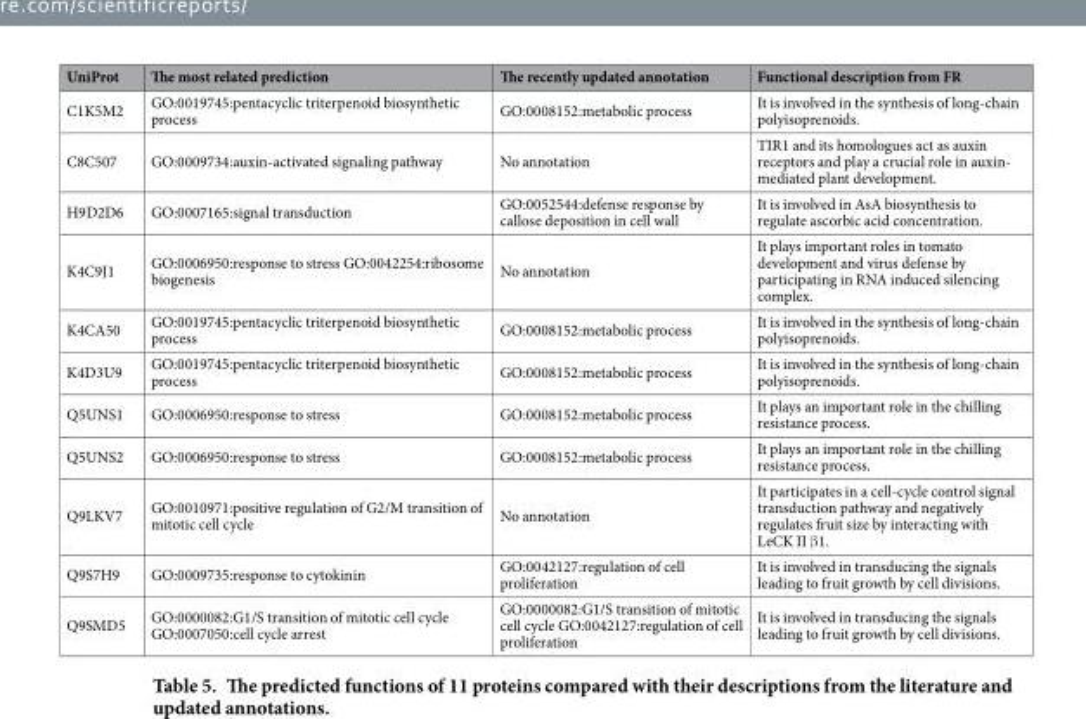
<table><thead><tr><td>UniProt</td><td>The most related prediction</td><td>The recently updated annotation</td><td>Functional description from FR</td></tr></thead><tbody><tr><td>C1K5M2</td><td>GO:0019745:pentacyclic triterpenoid biosynthetic process</td><td>GO:0008152:metabolic process</td><td>It is involved in the synthesis of long-chain polyisoprenoids.</td></tr><tr><td>C8C507</td><td>GO:0009734:auxin-activated signaling pathway</td><td>No annotation</td><td>TIR1 and its homologues act as auxin receptors and play a crucial role in auxin- mediated plant development.</td></tr><tr><td>H9D2D6</td><td>GO:0007165:signal transduction</td><td>GO:0052544:defense response by callose deposition in cell wall</td><td>It is involved in AsA biosynthesis to regulate ascorbic acid concentration.</td></tr><tr><td>K4C9J1</td><td>GO:0006950:response to stress GO:0042254:ribosome biogenesis</td><td>No annotation</td><td>It plays important roles in tomato development and virus defense by participating in RNA induced silencing complex.</td></tr><tr><td>K4CA50</td><td>GO:0019745:pentacyclic triterpenoid biosynthetic process</td><td>GO:0008152:metabolic process</td><td>It is involved in the synthesis of long-chain polyisoprenoids.</td></tr><tr><td>K4D3U9</td><td>GO:0019745:pentacyclic triterpenoid biosynthetic process</td><td>GO:0008152:metabolic process</td><td>It is involved in the synthesis of long-chain polyisoprenoids.</td></tr><tr><td>Q5UNS1</td><td>GO:0006950:response to stress</td><td>GO:0008152:metabolic process</td><td>It plays an important role in the chilling resistance process.</td></tr><tr><td>Q5UNS2</td><td>GO:0006950:response to stress</td><td>GO:0008152:metabolic process</td><td>It plays an important role in the chilling resistance process.</td></tr><tr><td>Q9LKV7</td><td>GO:0010971:positive regulation of G2/M transition of mitotic cell cycle</td><td>No annotation</td><td>It participates in a cell-cycle control signal transduction pathway and negatively regulates fruit size by interacting with LeCK II β 1.</td></tr><tr><td>Q9S7H9</td><td>GO:0009735:response to cytokinin</td><td>GO:0042127:regulation of cell proliferation</td><td>It is involved in transducing the signals leading to fruit growth by cell divisions.</td></tr><tr><td>Q9SMD5</td><td>GO:0000082:G1/S transition of mitotic cell cycle GO:0007050:cell cycle arrest</td><td>GO:0000082:G1/S transition of mitotic cell cycle GO:0042127:regulation of cell proliferation</td><td>It is involved in transducing the signals leading to fruit growth by cell divisions.</td></tr></tbody></table>